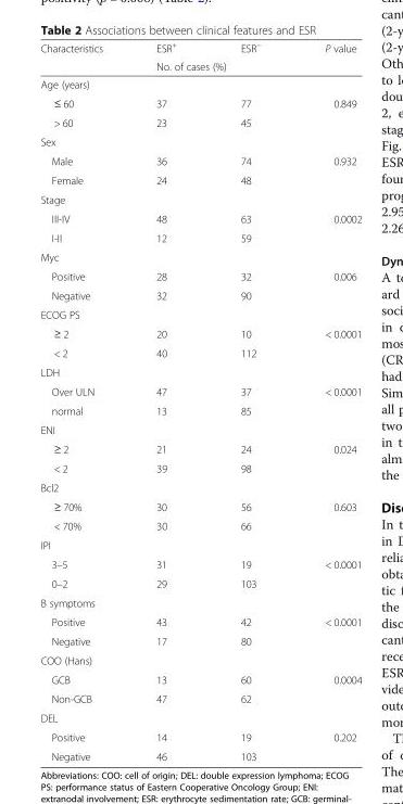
<table><thead><tr><td rowspan="2">Characteristics</td><td>ESR<sup>+</sup></td><td>ESR<sup>−</sup></td><td rowspan="2">P value</td></tr><tr><td colspan="2">No. of cases (%)</td></tr></thead><tbody><tr><td colspan="4">Age (years)</td></tr><tr><td>≤ 60</td><td>37</td><td>77</td><td rowspan="2">0.849</td></tr><tr><td>&gt; 60</td><td>23</td><td>45</td></tr><tr><td colspan="4">Sex</td></tr><tr><td>Male</td><td>36</td><td>74</td><td rowspan="2">0.932</td></tr><tr><td>Female</td><td>24</td><td>48</td></tr><tr><td colspan="4">Stage</td></tr><tr><td>III-IV</td><td>48</td><td>63</td><td rowspan="2">0.0002</td></tr><tr><td>I-II</td><td>12</td><td>59</td></tr><tr><td colspan="4">Myc</td></tr><tr><td>Positive</td><td>28</td><td>32</td><td rowspan="2">0.006</td></tr><tr><td>Negative</td><td>32</td><td>90</td></tr><tr><td colspan="4">ECOG PS</td></tr><tr><td>≥ 2</td><td>20</td><td>10</td><td rowspan="2">&lt; 0.0001</td></tr><tr><td>&lt; 2</td><td>40</td><td>112</td></tr><tr><td colspan="4">LDH</td></tr><tr><td>Over ULN</td><td>47</td><td>37</td><td rowspan="2">&lt; 0.0001</td></tr><tr><td>normal</td><td>13</td><td>85</td></tr><tr><td colspan="4">ENI</td></tr><tr><td>≥ 2</td><td>21</td><td>24</td><td rowspan="2">0.024</td></tr><tr><td>&lt; 2</td><td>39</td><td>98</td></tr><tr><td colspan="4">Bcl2</td></tr><tr><td>≥ 70%</td><td>30</td><td>56</td><td rowspan="2">0.603</td></tr><tr><td>&lt; 70%</td><td>30</td><td>66</td></tr><tr><td colspan="4">IPI</td></tr><tr><td>3–5</td><td>31</td><td>19</td><td rowspan="2">&lt; 0.0001</td></tr><tr><td>0–2</td><td>29</td><td>103</td></tr><tr><td colspan="4">B symptoms</td></tr><tr><td>Positive</td><td>43</td><td>42</td><td rowspan="2">&lt; 0.0001</td></tr><tr><td>Negative</td><td>17</td><td>80</td></tr><tr><td colspan="4">COO (Hans)</td></tr><tr><td>GCB</td><td>13</td><td>60</td><td rowspan="2">0.0004</td></tr><tr><td>Non-GCB</td><td>47</td><td>62</td></tr><tr><td colspan="4">DEL</td></tr><tr><td>Positive</td><td>14</td><td>19</td><td rowspan="2">0.202</td></tr><tr><td>Negative</td><td>46</td><td>103</td></tr></tbody></table>